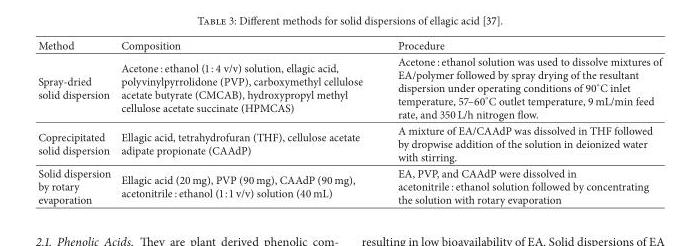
<table><thead><tr><td>Method</td><td>Composition</td><td>Procedure</td></tr></thead><tbody><tr><td>Spray-dried solid dispersion</td><td>Acetone : ethanol (1 : 4 v/v) solution, ellagic acid, polyvinylpyrrolidone (PVP), carboxymethyl cellulose acetate butyrate (CMCAB), hydroxypropyl methyl cellulose acetate succinate (HPMCAS)</td><td>Acetone : ethanol solution was used to dissolve mixtures of EA/polymer followed by spray drying of the resultant dispersion under operating conditions of 90∘C inlet temperature, 57–60∘C outlet temperature, 9 mL/min feed rate, and 350 L/h nitrogen flow.</td></tr><tr><td>Coprecipitated solid dispersion</td><td>Ellagic acid, tetrahydrofuran (THF), cellulose acetate adipate propionate (CAAdP)</td><td>A mixture of EA/CAAdP was dissolved in THF followed by dropwise addition of the solution in deionized water with stirring.</td></tr><tr><td>Solid dispersion by rotary evaporation</td><td>Ellagic acid (20 mg), PVP (90 mg), CAAdP (90 mg), acetonitrile : ethanol (1 : 1 v/v) solution (40 mL)</td><td>EA, PVP, and CAAdP were dissolved in acetonitrile : ethanol solution followed by concentrating the solution with rotary evaporation</td></tr></tbody></table>